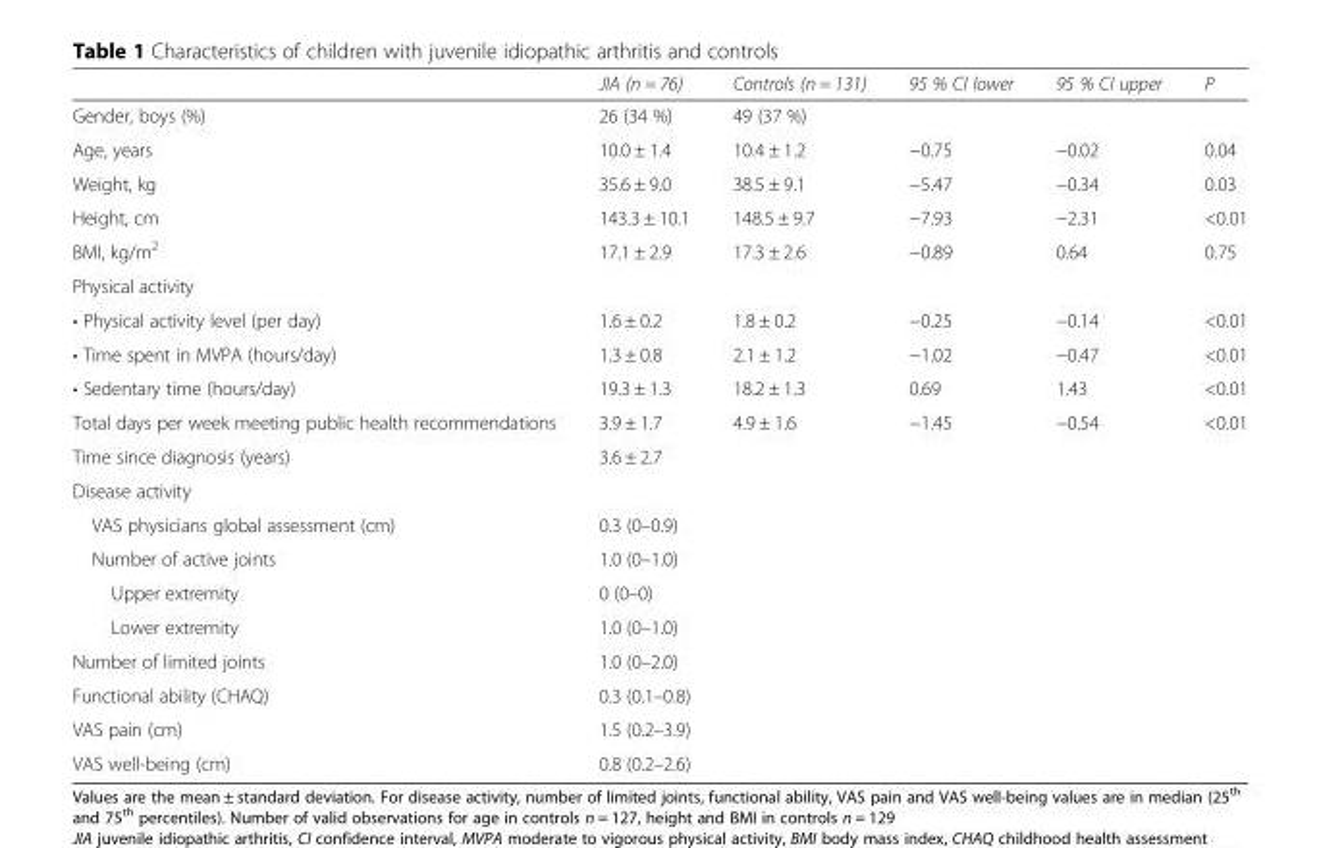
<table><thead><tr><td></td><td>JIA (n = 76)</td><td>Controls (n = 131)</td><td>95 % CI lower</td><td>95 % CI upper</td><td>P</td></tr></thead><tbody><tr><td>Gender, boys (%)</td><td>26 (34 %)</td><td>49 (37 %)</td><td></td><td></td><td></td></tr><tr><td>Age, years</td><td>10.0 ± 1.4</td><td>10.4 ± 1.2</td><td>−0.75</td><td>−0.02</td><td>0.04</td></tr><tr><td>Weight, kg</td><td>35.6 ± 9.0</td><td>38.5 ± 9.1</td><td>−5.47</td><td>−0.34</td><td>0.03</td></tr><tr><td>Height, cm</td><td>143.3 ± 10.1</td><td>148.5 ± 9.7</td><td>−7.93</td><td>−2.31</td><td>&lt;0.01</td></tr><tr><td>BMI, kg/m<sup>2</sup></td><td>17.1 ± 2.9</td><td>17.3 ± 2.6</td><td>−0.89</td><td>0.64</td><td>0.75</td></tr><tr><td colspan="6">Physical activity</td></tr><tr><td>• Physical activity level (per day)</td><td>1.6 ± 0.2</td><td>1.8 ± 0.2</td><td>−0.25</td><td>−0.14</td><td>&lt;0.01</td></tr><tr><td>• Time spent in MVPA (hours/day)</td><td>1.3 ± 0.8</td><td>2.1 ± 1.2</td><td>−1.02</td><td>−0.47</td><td>&lt;0.01</td></tr><tr><td>• Sedentary time (hours/day)</td><td>19.3 ± 1.3</td><td>18.2 ± 1.3</td><td>0.69</td><td>1.43</td><td>&lt;0.01</td></tr><tr><td>Total days per week meeting public health recommendations</td><td>3.9 ± 1.7</td><td>4.9 ± 1.6</td><td>−1.45</td><td>−0.54</td><td>&lt;0.01</td></tr><tr><td>Time since diagnosis (years)</td><td>3.6 ± 2.7</td><td></td><td></td><td></td><td></td></tr><tr><td colspan="6">Disease activity</td></tr><tr><td>VAS physicians global assessment (cm)</td><td>0.3 (0–0.9)</td><td></td><td></td><td></td><td></td></tr><tr><td>Number of active joints</td><td>1.0 (0–1.0)</td><td></td><td></td><td></td><td></td></tr><tr><td>Upper extremity</td><td>0 (0–0)</td><td></td><td></td><td></td><td></td></tr><tr><td>Lower extremity</td><td>1.0 (0–1.0)</td><td></td><td></td><td></td><td></td></tr><tr><td>Number of limited joints</td><td>1.0 (0–2.0)</td><td></td><td></td><td></td><td></td></tr><tr><td>Functional ability (CHAQ)</td><td>0.3 (0.1–0.8)</td><td></td><td></td><td></td><td></td></tr><tr><td>VAS pain (cm)</td><td>1.5 (0.2–3.9)</td><td></td><td></td><td></td><td></td></tr><tr><td>VAS well-being (cm)</td><td>0.8 (0.2–2.6)</td><td></td><td></td><td></td><td></td></tr></tbody></table>